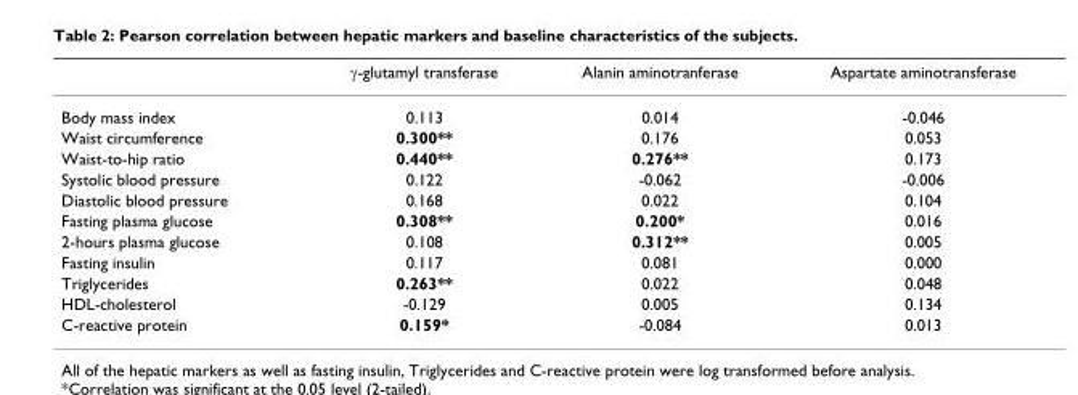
<table><thead><tr><td></td><td>γ-glutamyl transferase</td><td>Alanin aminotranferase</td><td>Aspartate aminotransferase</td></tr></thead><tbody><tr><td>Body mass index</td><td>0.113</td><td>0.014</td><td>-0.046</td></tr><tr><td>Waist circumference</td><td>0.300**</td><td>0.176</td><td>0.053</td></tr><tr><td>Waist-to-hip ratio</td><td>0.440**</td><td>0.276**</td><td>0.173</td></tr><tr><td>Systolic blood pressure</td><td>0.122</td><td>-0.062</td><td>-0.006</td></tr><tr><td>Diastolic blood pressure</td><td>0.168</td><td>0.022</td><td>0.104</td></tr><tr><td>Fasting plasma glucose</td><td>0.308**</td><td>0.200*</td><td>0.016</td></tr><tr><td>2-hours plasma glucose</td><td>0.108</td><td>0.312**</td><td>0.005</td></tr><tr><td>Fasting insulin</td><td>0.117</td><td>0.081</td><td>0.000</td></tr><tr><td>Triglycerides</td><td>0.263**</td><td>0.022</td><td>0.048</td></tr><tr><td>HDL-cholesterol</td><td>-0.129</td><td>0.005</td><td>0.134</td></tr><tr><td>C-reactive protein</td><td>0.159*</td><td>-0.084</td><td>0.013</td></tr></tbody></table>